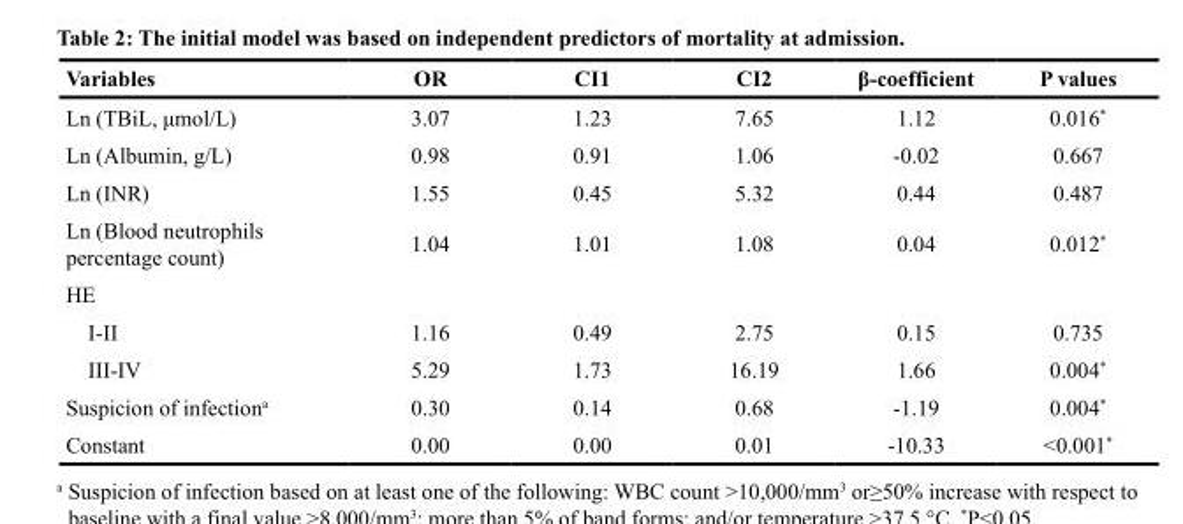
<table><thead><tr><td>Variables</td><td>OR</td><td>CI1</td><td>CI2</td><td>β-coefficient</td><td>P values</td></tr></thead><tbody><tr><td>Ln (TBiL, μmol/L)</td><td>3.07</td><td>1.23</td><td>7.65</td><td>1.12</td><td>0.016*</td></tr><tr><td>Ln (Albumin, g/L)</td><td>0.98</td><td>0.91</td><td>1.06</td><td>-0.02</td><td>0.667</td></tr><tr><td>Ln (INR)</td><td>1.55</td><td>0.45</td><td>5.32</td><td>0.44</td><td>0.487</td></tr><tr><td>Ln (Blood neutrophils percentage count)</td><td>1.04</td><td>1.01</td><td>1.08</td><td>0.04</td><td>0.012*</td></tr><tr><td colspan="6">HE</td></tr><tr><td>I-II</td><td>1.16</td><td>0.49</td><td>2.75</td><td>0.15</td><td>0.735</td></tr><tr><td>III-IV</td><td>5.29</td><td>1.73</td><td>16.19</td><td>1.66</td><td>0.004*</td></tr><tr><td>Suspicion of infection<sup>a</sup></td><td>0.30</td><td>0.14</td><td>0.68</td><td>-1.19</td><td>0.004*</td></tr><tr><td>Constant</td><td>0.00</td><td>0.00</td><td>0.01</td><td>-10.33</td><td>&lt;0.001*</td></tr></tbody></table>